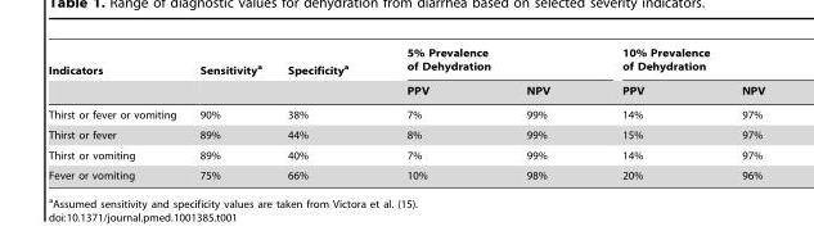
<table><thead><tr><td rowspan="2">Indicators</td><td rowspan="2">Sensitivity<sup>a</sup></td><td rowspan="2">Specificity<sup>a</sup></td><td colspan="2">5% Prevalence of Dehydration</td><td colspan="2">10% Prevalence of Dehydration</td></tr><tr><td>PPV</td><td>NPV</td><td>PPV</td><td>NPV</td></tr></thead><tbody><tr><td>Thirst or fever or vomiting</td><td>90%</td><td>38%</td><td>7%</td><td>99%</td><td>14%</td><td>97%</td></tr><tr><td>Thirst or fever</td><td>89%</td><td>44%</td><td>8%</td><td>99%</td><td>15%</td><td>97%</td></tr><tr><td>Thirst or vomiting</td><td>89%</td><td>40%</td><td>7%</td><td>99%</td><td>14%</td><td>97%</td></tr><tr><td>Fever or vomiting</td><td>75%</td><td>66%</td><td>10%</td><td>98%</td><td>20%</td><td>96%</td></tr></tbody></table>